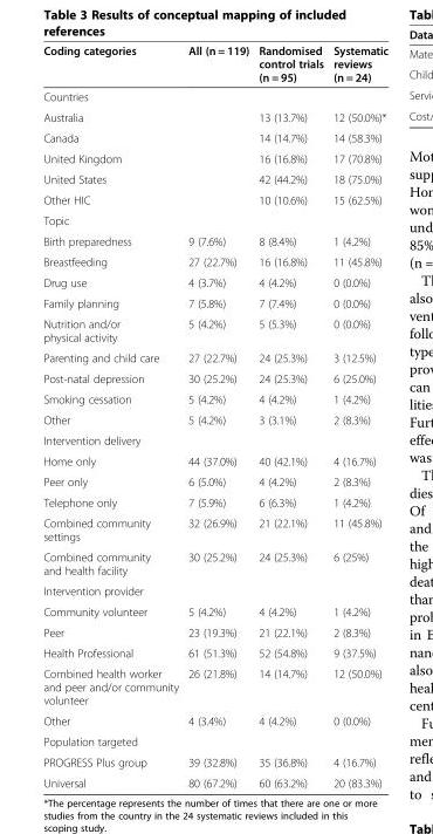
<table><thead><tr><td>Coding categories</td><td>All (n = 119)</td><td>Randomised control trials (n = 95)</td><td>Systematic reviews (n = 24)</td></tr></thead><tbody><tr><td colspan="4">Countries</td></tr><tr><td>Australia</td><td></td><td>13 (13.7%)</td><td>12 (50.0%)*</td></tr><tr><td>Canada</td><td></td><td>14 (14.7%)</td><td>14 (58.3%)</td></tr><tr><td>United Kingdom</td><td></td><td>16 (16.8%)</td><td>17 (70.8%)</td></tr><tr><td>United States</td><td></td><td>42 (44.2%)</td><td>18 (75.0%)</td></tr><tr><td>Other HIC</td><td></td><td>10 (10.6%)</td><td>15 (62.5%)</td></tr><tr><td colspan="4">Topic</td></tr><tr><td>Birth preparedness</td><td>9 (7.6%)</td><td>8 (8.4%)</td><td>1 (4.2%)</td></tr><tr><td>Breastfeeding</td><td>27 (22.7%)</td><td>16 (16.8%)</td><td>11 (45.8%)</td></tr><tr><td>Drug use</td><td>4 (3.7%)</td><td>4 (4.2%)</td><td>0 (0.0%)</td></tr><tr><td>Family planning</td><td>7 (5.8%)</td><td>7 (7.4%)</td><td>0 (0.0%)</td></tr><tr><td>Nutrition and/or physical activity</td><td>5 (4.2%)</td><td>5 (5.3%)</td><td>0 (0.0%)</td></tr><tr><td>Parenting and child care</td><td>27 (22.7%)</td><td>24 (25.3%)</td><td>3 (12.5%)</td></tr><tr><td>Post-natal depression</td><td>30 (25.2%)</td><td>24 (25.3%)</td><td>6 (25.0%)</td></tr><tr><td>Smoking cessation</td><td>5 (4.2%)</td><td>4 (4.2%)</td><td>1 (4.2%)</td></tr><tr><td>Other</td><td>5 (4.2%)</td><td>3 (3.1%)</td><td>2 (8.3%)</td></tr><tr><td colspan="4">Intervention delivery</td></tr><tr><td>Home only</td><td>44 (37.0%)</td><td>40 (42.1%)</td><td>4 (16.7%)</td></tr><tr><td>Peer only</td><td>6 (5.0%)</td><td>4 (4.2%)</td><td>2 (8.3%)</td></tr><tr><td>Telephone only</td><td>7 (5.9%)</td><td>6 (6.3%)</td><td>1 (4.2%)</td></tr><tr><td>Combined community settings</td><td>32 (26.9%)</td><td>21 (22.1%)</td><td>11 (45.8%)</td></tr><tr><td>Combined community and health facility</td><td>30 (25.2%)</td><td>24 (25.3%)</td><td>6 (25%)</td></tr><tr><td colspan="4">Intervention provider</td></tr><tr><td>Community volunteer</td><td>5 (4.2%)</td><td>4 (4.2%)</td><td>1 (4.2%)</td></tr><tr><td>Peer</td><td>23 (19.3%)</td><td>21 (22.1%)</td><td>2 (8.3%)</td></tr><tr><td>Health Professional</td><td>61 (51.3%)</td><td>52 (54.8%)</td><td>9 (37.5%)</td></tr><tr><td>Combined health worker and peer and/or community volunteer</td><td>26 (21.8%)</td><td>14 (14.7%)</td><td>12 (50.0%)</td></tr><tr><td>Other</td><td>4 (3.4%)</td><td>4 (4.2%)</td><td>0 (0.0%)</td></tr><tr><td colspan="4">Population targeted</td></tr><tr><td>PROGRESS Plus group</td><td>39 (32.8%)</td><td>35 (36.8%)</td><td>4 (16.7%)</td></tr><tr><td>Universal</td><td>80 (67.2%)</td><td>60 (63.2%)</td><td>20 (83.3%)</td></tr></tbody></table>